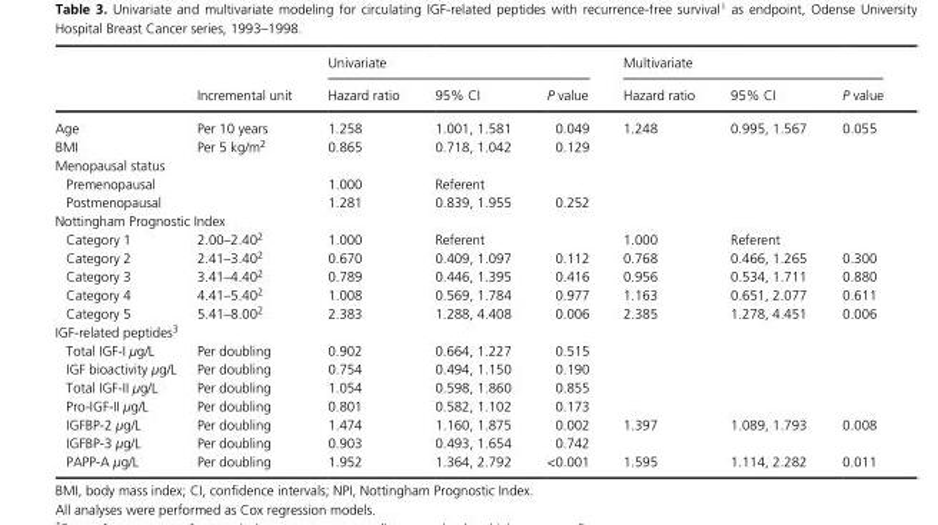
<table><thead><tr><td rowspan="2"></td><td rowspan="2">Incremental unit</td><td colspan="3">Univariate</td><td colspan="3">Multivariate</td></tr><tr><td>Hazard ratio</td><td>95% CI</td><td>P value</td><td>Hazard ratio</td><td>95% CI</td><td>P value</td></tr></thead><tbody><tr><td>Age</td><td>Per 10 years</td><td>1.258</td><td>1.001, 1.581</td><td>0.049</td><td>1.248</td><td>0.995, 1.567</td><td>0.055</td></tr><tr><td>BMI</td><td>Per 5 kg/m<sup>2</sup></td><td>0.865</td><td>0.718, 1.042</td><td>0.129</td><td></td><td></td><td></td></tr><tr><td colspan="8">Menopausal status</td></tr><tr><td>Premenopausal</td><td></td><td>1.000</td><td>Referent</td><td></td><td></td><td></td><td></td></tr><tr><td>Postmenopausal</td><td></td><td>1.281</td><td>0.839, 1.955</td><td>0.252</td><td></td><td></td><td></td></tr><tr><td colspan="8">Nottingham Prognostic Index</td></tr><tr><td>Category 1</td><td>2.00–2.402</td><td>1.000</td><td>Referent</td><td></td><td>1.000</td><td>Referent</td><td></td></tr><tr><td>Category 2</td><td>2.41–3.402</td><td>0.670</td><td>0.409, 1.097</td><td>0.112</td><td>0.768</td><td>0.466, 1.265</td><td>0.300</td></tr><tr><td>Category 3</td><td>3.41–4.402</td><td>0.789</td><td>0.446, 1.395</td><td>0.416</td><td>0.956</td><td>0.534, 1.711</td><td>0.880</td></tr><tr><td>Category 4</td><td>4.41–5.402</td><td>1.008</td><td>0.569, 1.784</td><td>0.977</td><td>1.163</td><td>0.651, 2.077</td><td>0.611</td></tr><tr><td>Category 5</td><td>5.41–8.002</td><td>2.383</td><td>1.288, 4.408</td><td>0.006</td><td>2.385</td><td>1.278, 4.451</td><td>0.006</td></tr><tr><td colspan="8">IGF- related peptides3</td></tr><tr><td>Total IGF- I μg/L</td><td>Per doubling</td><td>0.902</td><td>0.664, 1.227</td><td>0.515</td><td></td><td></td><td></td></tr><tr><td>IGF bioactivity μg/L</td><td>Per doubling</td><td>0.754</td><td>0.494, 1.150</td><td>0.190</td><td></td><td></td><td></td></tr><tr><td>Total IGF- II μg/L</td><td>Per doubling</td><td>1.054</td><td>0.598, 1.860</td><td>0.855</td><td></td><td></td><td></td></tr><tr><td>Pro- IGF- II μg/L</td><td>Per doubling</td><td>0.801</td><td>0.582, 1.102</td><td>0.173</td><td></td><td></td><td></td></tr><tr><td>IGFBP- 2 μg/L</td><td>Per doubling</td><td>1.474</td><td>1.160, 1.875</td><td>0.002</td><td>1.397</td><td>1.089, 1.793</td><td>0.008</td></tr><tr><td>IGFBP- 3 μg/L</td><td>Per doubling</td><td>0.903</td><td>0.493, 1.654</td><td>0.742</td><td></td><td></td><td></td></tr><tr><td>PAPP- A μg/L</td><td>Per doubling</td><td>1.952</td><td>1.364, 2.792</td><td>&lt;0.001</td><td>1.595</td><td>1.114, 2.282</td><td>0.011</td></tr></tbody></table>